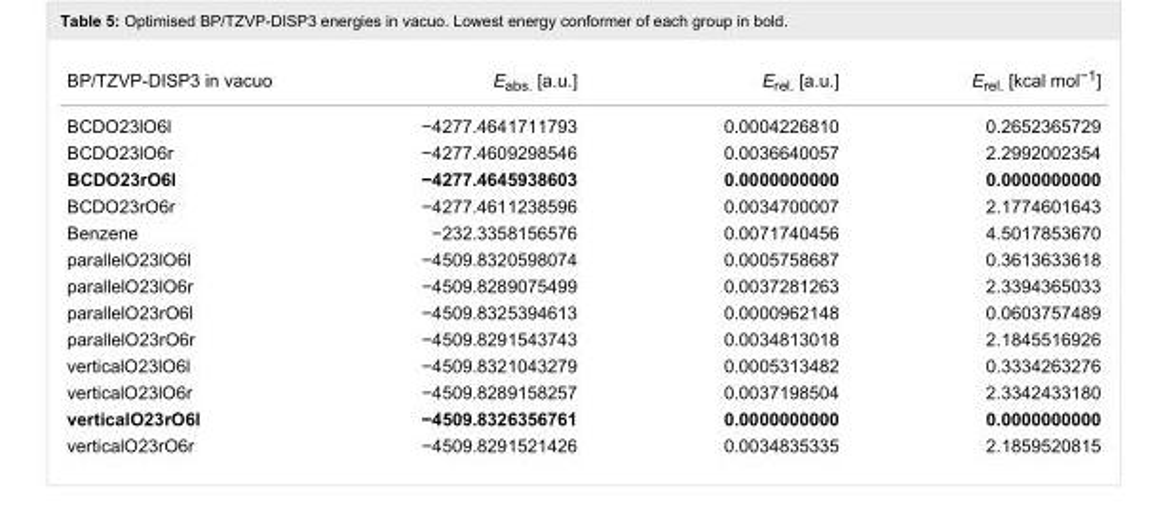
<table><tbody><tr><td>BP/TZVP-DISP3 in vacuo</td><td>E<sub>abs.</sub> [a.u.]</td><td>E<sub>rel.</sub> [a.u.]</td><td>E<sub>rel.</sub> [kcal mol<sup>−1</sup>]</td></tr><tr><td>BCDO23lO6l</td><td>−4277.4641711793</td><td>0.0004226810</td><td>0.2652365729</td></tr><tr><td>BCDO23lO6r</td><td>−4277.4609298546</td><td>0.0036640057</td><td>2.2992002354</td></tr><tr><td>BCDO23rO6l</td><td>−4277.4645938603</td><td>0.0000000000</td><td>0.0000000000</td></tr><tr><td>BCDO23rO6r</td><td>−4277.4611238596</td><td>0.0034700007</td><td>2.1774601643</td></tr><tr><td>Benzene</td><td>−232.3358156576</td><td>0.0071740456</td><td>4.5017853670</td></tr><tr><td>parallelO23lO6l</td><td>−4509.8320598074</td><td>0.0005758687</td><td>0.3613633618</td></tr><tr><td>parallelO23lO6r</td><td>−4509.8289075499</td><td>0.0037281263</td><td>2.3394365033</td></tr><tr><td>parallelO23rO6l</td><td>−4509.8325394613</td><td>0.0000962148</td><td>0.0603757489</td></tr><tr><td>parallelO23rO6r</td><td>−4509.8291543743</td><td>0.0034813018</td><td>2.1845516926</td></tr><tr><td>verticalO23lO6l</td><td>−4509.8321043279</td><td>0.0005313482</td><td>0.3334263276</td></tr><tr><td>verticalO23lO6r</td><td>−4509.8289158257</td><td>0.0037198504</td><td>2.3342433180</td></tr><tr><td>verticalO23rO6l</td><td>−4509.8326356761</td><td>0.0000000000</td><td>0.0000000000</td></tr><tr><td>verticalO23rO6r</td><td>−4509.8291521426</td><td>0.0034835335</td><td>2.1859520815</td></tr></tbody></table>